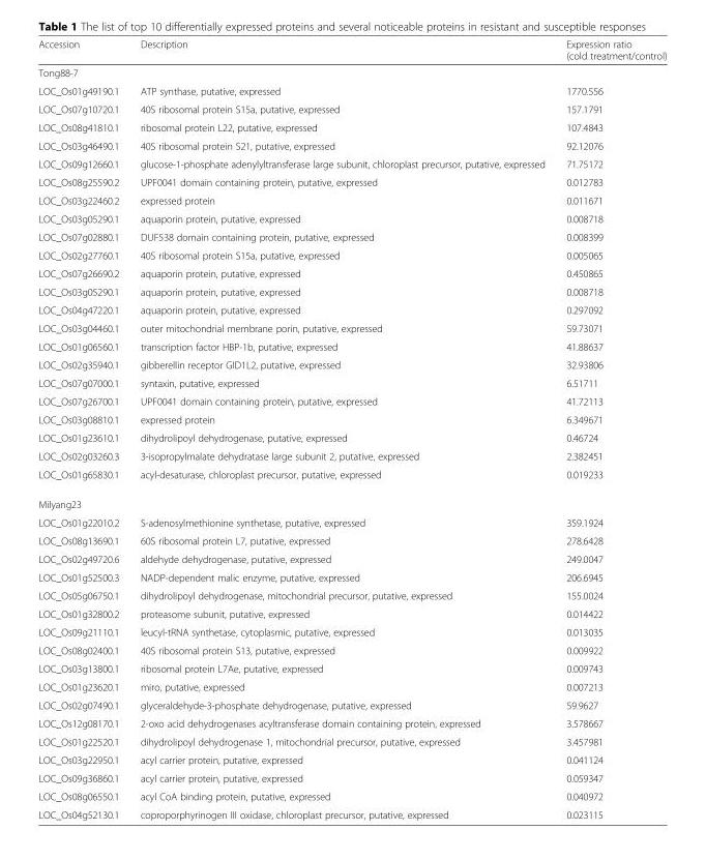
<table><thead><tr><td>Accession</td><td>Description</td><td>Expression ratio (cold treatment/control)</td></tr></thead><tbody><tr><td colspan="3">Tong88-7</td></tr><tr><td>LOC_Os01g49190.1</td><td>ATP synthase, putative, expressed</td><td>1770.556</td></tr><tr><td>LOC_Os07g10720.1</td><td>40S ribosomal protein S15a, putative, expressed</td><td>157.1791</td></tr><tr><td>LOC_Os08g41810.1</td><td>ribosomal protein L22, putative, expressed</td><td>107.4843</td></tr><tr><td>LOC_Os03g46490.1</td><td>40S ribosomal protein S21, putative, expressed</td><td>92.12076</td></tr><tr><td>LOC_Os09g12660.1</td><td>glucose-1-phosphate adenylyltransferase large subunit, chloroplast precursor, putative, expressed</td><td>71.75172</td></tr><tr><td>LOC_Os08g25590.2</td><td>UPF0041 domain containing protein, putative, expressed</td><td>0.012783</td></tr><tr><td>LOC_Os03g22460.2</td><td>expressed protein</td><td>0.011671</td></tr><tr><td>LOC_Os03g05290.1</td><td>aquaporin protein, putative, expressed</td><td>0.008718</td></tr><tr><td>LOC_Os07g02880.1</td><td>DUF538 domain containing protein, putative, expressed</td><td>0.008399</td></tr><tr><td>LOC_Os02g27760.1</td><td>40S ribosomal protein S15a, putative, expressed</td><td>0.005065</td></tr><tr><td>LOC_Os07g26690.2</td><td>aquaporin protein, putative, expressed</td><td>0.450865</td></tr><tr><td>LOC_Os03g05290.1</td><td>aquaporin protein, putative, expressed</td><td>0.008718</td></tr><tr><td>LOC_Os04g47220.1</td><td>aquaporin protein, putative, expressed</td><td>0.297092</td></tr><tr><td>LOC_Os03g04460.1</td><td>outer mitochondrial membrane porin, putative, expressed</td><td>59.73071</td></tr><tr><td>LOC_Os01g06560.1</td><td>transcription factor HBP-1b, putative, expressed</td><td>41.88637</td></tr><tr><td>LOC_Os02g35940.1</td><td>gibberellin receptor GID1L2, putative, expressed</td><td>32.93806</td></tr><tr><td>LOC_Os07g07000.1</td><td>syntaxin, putative, expressed</td><td>6.51711</td></tr><tr><td>LOC_Os07g26700.1</td><td>UPF0041 domain containing protein, putative, expressed</td><td>41.72113</td></tr><tr><td>LOC_Os03g08810.1</td><td>expressed protein</td><td>6.349671</td></tr><tr><td>LOC_Os01g23610.1</td><td>dihydrolipoyl dehydrogenase, putative, expressed</td><td>0.46724</td></tr><tr><td>LOC_Os02g03260.3</td><td>3-isopropylmalate dehydratase large subunit 2, putative, expressed</td><td>2.382451</td></tr><tr><td>LOC_Os01g65830.1</td><td>acyl-desaturase, chloroplast precursor, putative, expressed</td><td>0.019233</td></tr><tr><td colspan="3">Milyang23</td></tr><tr><td>LOC_Os01g22010.2</td><td>S-adenosylmethionine synthetase, putative, expressed</td><td>359.1924</td></tr><tr><td>LOC_Os08g13690.1</td><td>60S ribosomal protein L7, putative, expressed</td><td>278.6428</td></tr><tr><td>LOC_Os02g49720.6</td><td>aldehyde dehydrogenase, putative, expressed</td><td>249.0047</td></tr><tr><td>LOC_Os01g52500.3</td><td>NADP-dependent malic enzyme, putative, expressed</td><td>206.6945</td></tr><tr><td>LOC_Os05g06750.1</td><td>dihydrolipoyl dehydrogenase, mitochondrial precursor, putative, expressed</td><td>155.0024</td></tr><tr><td>LOC_Os01g32800.2</td><td>proteasome subunit, putative, expressed</td><td>0.014422</td></tr><tr><td>LOC_Os09g21110.1</td><td>leucyl-tRNA synthetase, cytoplasmic, putative, expressed</td><td>0.013035</td></tr><tr><td>LOC_Os08g02400.1</td><td>40S ribosomal protein S13, putative, expressed</td><td>0.009922</td></tr><tr><td>LOC_Os03g13800.1</td><td>ribosomal protein L7Ae, putative, expressed</td><td>0.009743</td></tr><tr><td>LOC_Os01g23620.1</td><td>miro, putative, expressed</td><td>0.007213</td></tr><tr><td>LOC_Os02g07490.1</td><td>glyceraldehyde-3-phosphate dehydrogenase, putative, expressed</td><td>59.9627</td></tr><tr><td>LOC_Os12g08170.1</td><td>2-oxo acid dehydrogenases acyltransferase domain containing protein, expressed</td><td>3.578667</td></tr><tr><td>LOC_Os01g22520.1</td><td>dihydrolipoyl dehydrogenase 1, mitochondrial precursor, putative, expressed</td><td>3.457981</td></tr><tr><td>LOC_Os03g22950.1</td><td>acyl carrier protein, putative, expressed</td><td>0.041124</td></tr><tr><td>LOC_Os09g36860.1</td><td>acyl carrier protein, putative, expressed</td><td>0.059347</td></tr><tr><td>LOC_Os08g06550.1</td><td>acyl CoA binding protein, putative, expressed</td><td>0.040972</td></tr><tr><td>LOC_Os04g52130.1</td><td>coproporphyrinogen III oxidase, chloroplast precursor, putative, expressed</td><td>0.023115</td></tr></tbody></table>